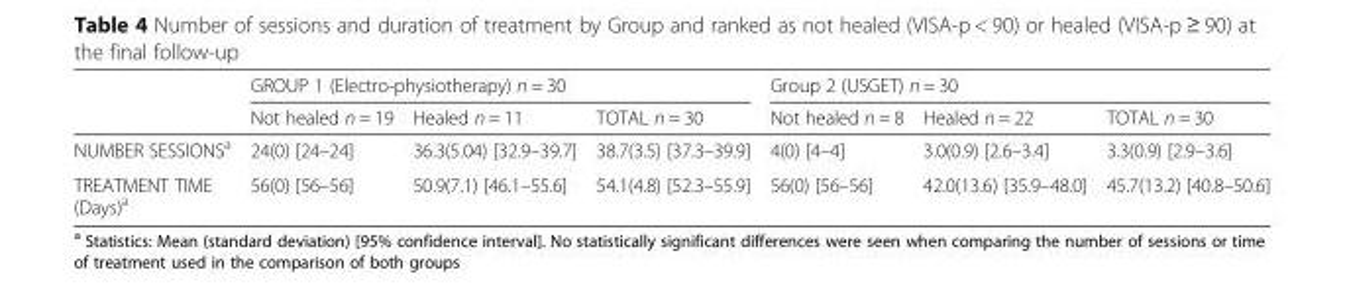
<table><thead><tr><td rowspan="2"></td><td colspan="3">GROUP 1 (Electro-physiotherapy) n = 30</td><td colspan="3">Group 2 (USGET) n = 30</td></tr><tr><td>Not healed n = 19</td><td>Healed n = 11</td><td>TOTAL n = 30</td><td>Not healed n = 8</td><td>Healed n = 22</td><td>TOTAL n = 30</td></tr></thead><tbody><tr><td>NUMBER SESSIONS<sup>a</sup></td><td>24(0) [24–24]</td><td>36.3(5.04) [32.9–39.7]</td><td>38.7(3.5) [37.3–39.9]</td><td>4(0) [4–4]</td><td>3.0(0.9) [2.6–3.4]</td><td>3.3(0.9) [2.9–3.6]</td></tr><tr><td>TREATMENT TIME (Days)<sup>a</sup></td><td>56(0) [56–56]</td><td>50.9(7.1) [46.1–55.6]</td><td>54.1(4.8) [52.3–55.9]</td><td>56(0) [56–56]</td><td>42.0(13.6) [35.9–48.0]</td><td>45.7(13.2) [40.8–50.6]</td></tr></tbody></table>